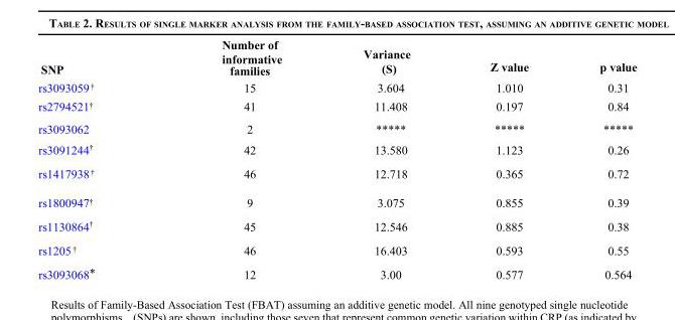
<table><thead><tr><td>SNP</td><td>Number of informative families</td><td>Variance (S)</td><td>Z value</td><td>p value</td></tr></thead><tbody><tr><td>rs3093059<sup>†</sup></td><td>15</td><td>3.604</td><td>1.010</td><td>0.31</td></tr><tr><td>rs2794521<sup>†</sup></td><td>41</td><td>11.408</td><td>0.197</td><td>0.84</td></tr><tr><td>rs3093062</td><td>2</td><td>*****</td><td>*****</td><td>*****</td></tr><tr><td>rs3091244<sup>†</sup></td><td>42</td><td>13.580</td><td>1.123</td><td>0.26</td></tr><tr><td>rs1417938<sup>†</sup></td><td>46</td><td>12.718</td><td>0.365</td><td>0.72</td></tr><tr><td>rs1800947<sup>†</sup></td><td>9</td><td>3.075</td><td>0.855</td><td>0.39</td></tr><tr><td>rs1130864<sup>†</sup></td><td>45</td><td>12.546</td><td>0.885</td><td>0.38</td></tr><tr><td>rs1205 <sup>†</sup></td><td>46</td><td>16.403</td><td>0.593</td><td>0.55</td></tr><tr><td>rs3093068*</td><td>12</td><td>3.00</td><td>0.577</td><td>0.564</td></tr></tbody></table>